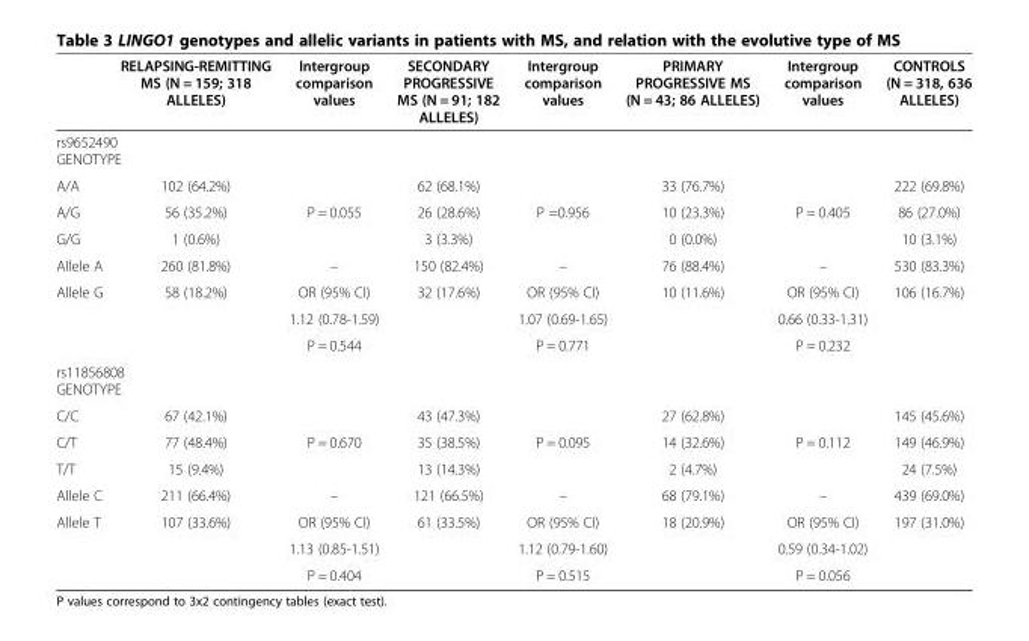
<table><thead><tr><td></td><td>RELAPSING-REMITTING MS (N = 159; 318 ALLELES)</td><td>Intergroup comparison values</td><td>SECONDARY PROGRESSIVE MS (N = 91; 182 ALLELES)</td><td>Intergroup comparison values</td><td>PRIMARY PROGRESSIVE MS (N = 43; 86 ALLELES)</td><td>Intergroup comparison values</td><td>CONTROLS (N = 318, 636 ALLELES)</td></tr></thead><tbody><tr><td colspan="8">rs9652490 GENOTYPE</td></tr><tr><td>A/A</td><td>102 (64.2%)</td><td></td><td>62 (68.1%)</td><td></td><td>33 (76.7%)</td><td></td><td>222 (69.8%)</td></tr><tr><td>A/G</td><td>56 (35.2%)</td><td>P = 0.055</td><td>26 (28.6%)</td><td>P =0.956</td><td>10 (23.3%)</td><td>P = 0.405</td><td>86 (27.0%)</td></tr><tr><td>G/G</td><td>1 (0.6%)</td><td></td><td>3 (3.3%)</td><td></td><td>0 (0.0%)</td><td></td><td>10 (3.1%)</td></tr><tr><td>Allele A</td><td>260 (81.8%)</td><td>–</td><td>150 (82.4%)</td><td>–</td><td>76 (88.4%)</td><td>–</td><td>530 (83.3%)</td></tr><tr><td rowspan="3">Allele G</td><td rowspan="3">58 (18.2%)</td><td>OR (95% CI)</td><td rowspan="3">32 (17.6%)</td><td>OR (95% CI)</td><td rowspan="3">10 (11.6%)</td><td>OR (95% CI)</td><td rowspan="3">106 (16.7%)</td></tr><tr><td>1.12 (0.78-1.59)</td><td>1.07 (0.69-1.65)</td><td>0.66 (0.33-1.31)</td></tr><tr><td>P = 0.544</td><td>P = 0.771</td><td>P = 0.232</td></tr><tr><td colspan="8">rs11856808 GENOTYPE</td></tr><tr><td>C/C</td><td>67 (42.1%)</td><td></td><td>43 (47.3%)</td><td></td><td>27 (62.8%)</td><td></td><td>145 (45.6%)</td></tr><tr><td>C/T</td><td>77 (48.4%)</td><td>P = 0.670</td><td>35 (38.5%)</td><td>P = 0.095</td><td>14 (32.6%)</td><td>P = 0.112</td><td>149 (46.9%)</td></tr><tr><td>T/T</td><td>15 (9.4%)</td><td></td><td>13 (14.3%)</td><td></td><td>2 (4.7%)</td><td></td><td>24 (7.5%)</td></tr><tr><td>Allele C</td><td>211 (66.4%)</td><td>–</td><td>121 (66.5%)</td><td>–</td><td>68 (79.1%)</td><td>–</td><td>439 (69.0%)</td></tr><tr><td rowspan="3">Allele T</td><td>107 (33.6%)</td><td>OR (95% CI)</td><td>61 (33.5%)</td><td>OR (95% CI)</td><td>18 (20.9%)</td><td>OR (95% CI)</td><td>197 (31.0%)</td></tr><tr><td></td><td>1.13 (0.85-1.51)</td><td></td><td>1.12 (0.79-1.60)</td><td></td><td>0.59 (0.34-1.02)</td><td></td></tr><tr><td></td><td>P = 0.404</td><td></td><td>P = 0.515</td><td></td><td>P = 0.056</td><td></td></tr></tbody></table>